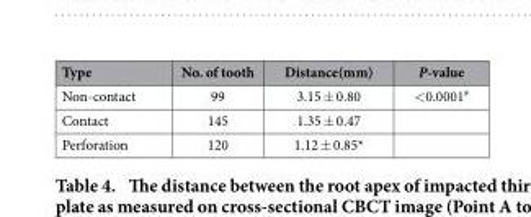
<table><thead><tr><td>Type</td><td>No. of tooth</td><td>Distance(mm)</td><td>P-value</td></tr></thead><tbody><tr><td>Non-contact</td><td>99</td><td>3.15 ± 0.80</td><td>&lt; 0.0001<sup>#</sup></td></tr><tr><td>Contact</td><td>145</td><td>1.35 ± 0.47</td><td></td></tr><tr><td>Perforation</td><td>120</td><td>1.12 ± 0.85*</td><td></td></tr></tbody></table>